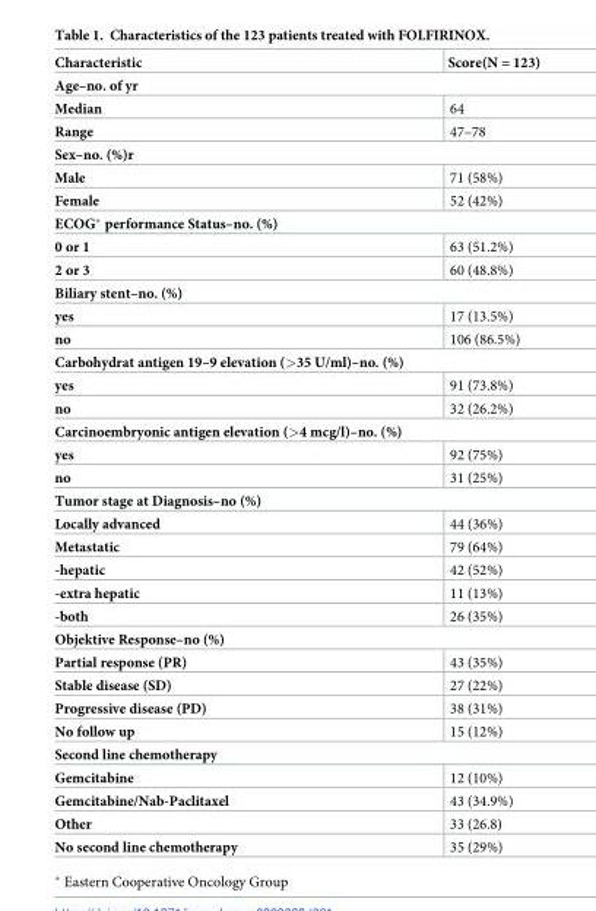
<table><thead><tr><td>Characteristic</td><td>Score(N = 123)</td></tr></thead><tbody><tr><td colspan="2">Age–no. of yr</td></tr><tr><td>Median</td><td>64</td></tr><tr><td>Range</td><td>47–78</td></tr><tr><td colspan="2">Sex–no. (%)r</td></tr><tr><td>Male</td><td>71 (58%)</td></tr><tr><td>Female</td><td>52 (42%)</td></tr><tr><td colspan="2">ECOG* performance Status–no. (%)</td></tr><tr><td>0 or 1</td><td>63 (51.2%)</td></tr><tr><td>2 or 3</td><td>60 (48.8%)</td></tr><tr><td colspan="2">Biliary stent–no. (%)</td></tr><tr><td>yes</td><td>17 (13.5%)</td></tr><tr><td>no</td><td>106 (86.5%)</td></tr><tr><td colspan="2">Carbohydrat antigen 19–9 elevation (&gt;35 U/ml)–no. (%)</td></tr><tr><td>yes</td><td>91 (73.8%)</td></tr><tr><td>no</td><td>32 (26.2%)</td></tr><tr><td colspan="2">Carcinoembryonic antigen elevation (&gt;4 mcg/l)–no. (%)</td></tr><tr><td>yes</td><td>92 (75%)</td></tr><tr><td>no</td><td>31 (25%)</td></tr><tr><td colspan="2">Tumor stage at Diagnosis–no (%)</td></tr><tr><td>Locally advanced</td><td>44 (36%)</td></tr><tr><td>Metastatic</td><td>79 (64%)</td></tr><tr><td>-hepatic</td><td>42 (52%)</td></tr><tr><td>-extra hepatic</td><td>11 (13%)</td></tr><tr><td>-both</td><td>26 (35%)</td></tr><tr><td colspan="2">Objektive Response–no (%)</td></tr><tr><td>Partial response (PR)</td><td>43 (35%)</td></tr><tr><td>Stable disease (SD)</td><td>27 (22%)</td></tr><tr><td>Progressive disease (PD)</td><td>38 (31%)</td></tr><tr><td>No follow up</td><td>15 (12%)</td></tr><tr><td colspan="2">Second line chemotherapy</td></tr><tr><td>Gemcitabine</td><td>12 (10%)</td></tr><tr><td>Gemcitabine/Nab-Paclitaxel</td><td>43 (34.9%)</td></tr><tr><td>Other</td><td>33 (26.8)</td></tr><tr><td>No second line chemotherapy</td><td>35 (29%)</td></tr></tbody></table>